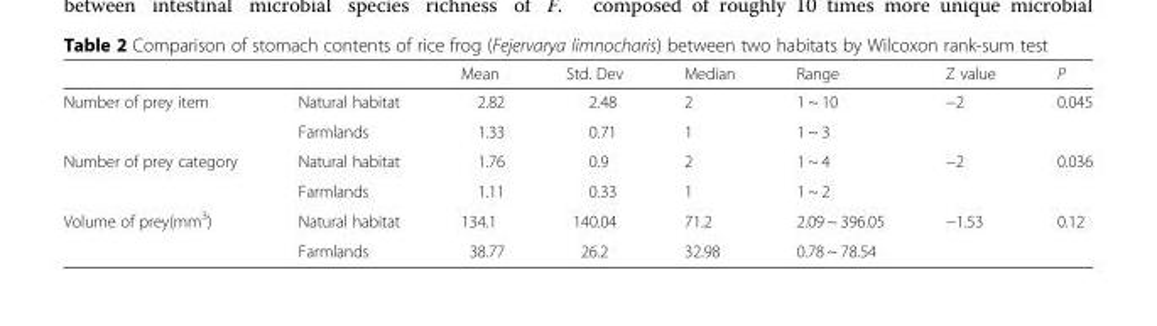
<table><thead><tr><td></td><td></td><td>Mean</td><td>Std. Dev</td><td>Median</td><td>Range</td><td>Z value</td><td>P</td></tr></thead><tbody><tr><td rowspan="2">Number of prey item</td><td>Natural habitat</td><td>2.82</td><td>2.48</td><td>2</td><td>1 ~ 10</td><td rowspan="2">−2</td><td rowspan="2">0.045</td></tr><tr><td>Farmlands</td><td>1.33</td><td>0.71</td><td>1</td><td>1 ~ 3</td></tr><tr><td rowspan="2">Number of prey category</td><td>Natural habitat</td><td>1.76</td><td>0.9</td><td>2</td><td>1 ~ 4</td><td rowspan="2">−2</td><td rowspan="2">0.036</td></tr><tr><td>Farmlands</td><td>1.11</td><td>0.33</td><td>1</td><td>1 ~ 2</td></tr><tr><td rowspan="2">Volume of prey(mm<sup>3</sup>)</td><td>Natural habitat</td><td>134.1</td><td>140.04</td><td>71.2</td><td>2.09 ~ 396.05</td><td rowspan="2">−1.53</td><td rowspan="2">0.12</td></tr><tr><td>Farmlands</td><td>38.77</td><td>26.2</td><td>32.98</td><td>0.78 ~ 78.54</td></tr></tbody></table>